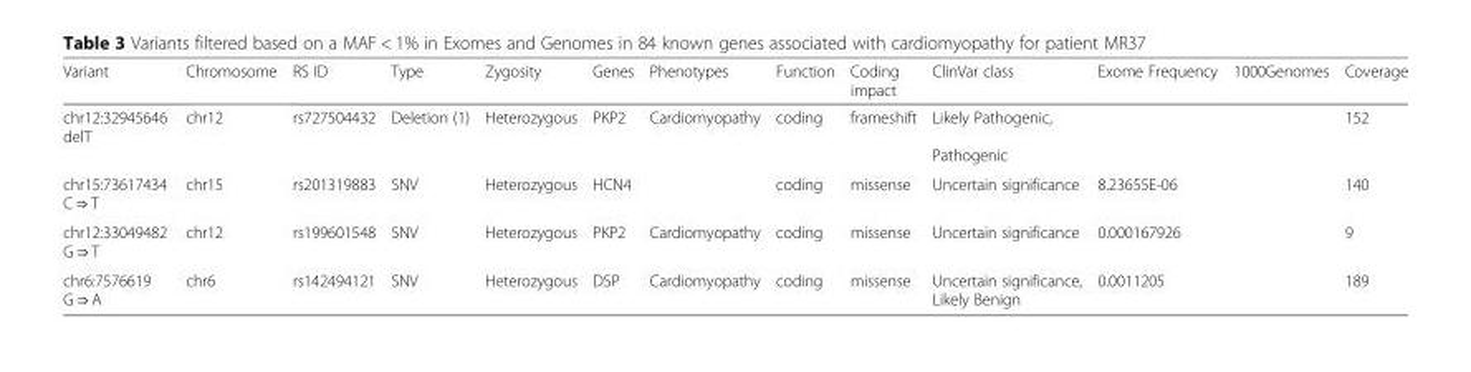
<table><thead><tr><td>Variant</td><td>Chromosome</td><td>RS ID</td><td>Type</td><td>Zygosity</td><td>Genes</td><td>Phenotypes</td><td>Function</td><td>Coding impact</td><td>ClinVar class</td><td>Exome Frequency</td><td>1000Genomes</td><td>Coverage</td></tr></thead><tbody><tr><td>chr12:32945646 delT</td><td>chr12</td><td>rs727504432</td><td>Deletion (1)</td><td>Heterozygous</td><td>PKP2</td><td>Cardiomyopathy</td><td>coding</td><td>frameshift</td><td>Likely Pathogenic, Pathogenic</td><td></td><td></td><td>152</td></tr><tr><td>chr15:73617434 C ⇒ T</td><td>chr15</td><td>rs201319883</td><td>SNV</td><td>Heterozygous</td><td>HCN4</td><td></td><td>coding</td><td>missense</td><td>Uncertain significance</td><td>8.23655E-06</td><td></td><td>140</td></tr><tr><td>chr12:33049482 G ⇒ T</td><td>chr12</td><td>rs199601548</td><td>SNV</td><td>Heterozygous</td><td>PKP2</td><td>Cardiomyopathy</td><td>coding</td><td>missense</td><td>Uncertain significance</td><td>0.000167926</td><td></td><td>9</td></tr><tr><td>chr6:7576619 G ⇒ A</td><td>chr6</td><td>rs142494121</td><td>SNV</td><td>Heterozygous</td><td>DSP</td><td>Cardiomyopathy</td><td>coding</td><td>missense</td><td>Uncertain significance, Likely Benign</td><td>0.0011205</td><td></td><td>189</td></tr></tbody></table>